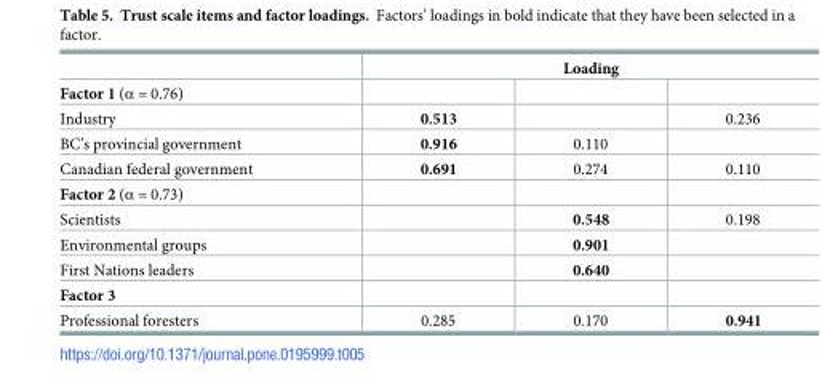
<table><thead><tr><td rowspan="2">Factor 1 (α = 0.76)</td><td colspan="3">Loading</td></tr><tr><td></td><td></td><td></td></tr></thead><tbody><tr><td>Industry</td><td>0.513</td><td></td><td>0.236</td></tr><tr><td>BC’s provincial government</td><td>0.916</td><td>0.110</td><td></td></tr><tr><td>Canadian federal government</td><td>0.691</td><td>0.274</td><td>0.110</td></tr><tr><td colspan="4">Factor 2 (α = 0.73)</td></tr><tr><td>Scientists</td><td></td><td>0.548</td><td>0.198</td></tr><tr><td>Environmental groups</td><td></td><td>0.901</td><td></td></tr><tr><td>First Nations leaders</td><td></td><td>0.640</td><td></td></tr><tr><td colspan="4">Factor 3</td></tr><tr><td>Professional foresters</td><td>0.285</td><td>0.170</td><td>0.941</td></tr></tbody></table>